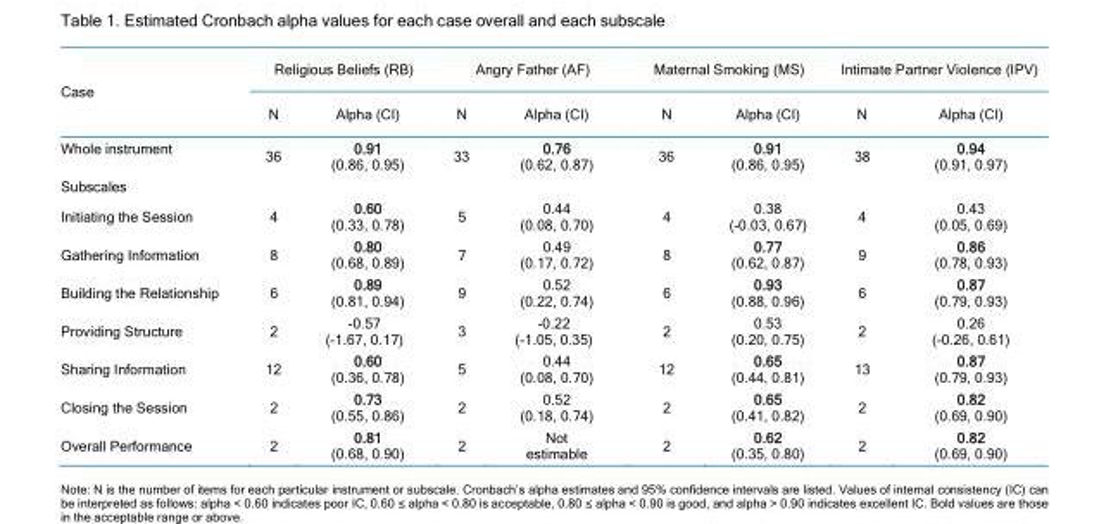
<table><thead><tr><td rowspan="2">Case</td><td colspan="2">Religious Beliefs (RB)</td><td colspan="2">Angry Father (AF)</td><td colspan="2">Maternal Smoking (MS)</td><td colspan="2">Intimate Partner Violence (IPV)</td></tr><tr><td>N</td><td>Alpha (CI)</td><td>N</td><td>Alpha (CI)</td><td>N</td><td>Alpha (CI)</td><td>N</td><td>Alpha (CI)</td></tr></thead><tbody><tr><td>Whole instrument</td><td>36</td><td>0.91 (0.86, 0.95)</td><td>33</td><td>0.76 (0.62, 0.87)</td><td>36</td><td>0.91 (0.86, 0.95)</td><td>38</td><td>0.94 (0.91, 0.97)</td></tr><tr><td colspan="9">Subscales</td></tr><tr><td>Initiating the Session</td><td>4</td><td>0.60 (0.33, 0.78)</td><td>5</td><td>0.44 (0.08, 0.70)</td><td>4</td><td>0.38 (-0.03, 0.67)</td><td>4</td><td>0.43 (0.05, 0.69)</td></tr><tr><td>Gathering Information</td><td>8</td><td>0.80 (0.68, 0.89)</td><td>7</td><td>0.49 (0.17, 0.72)</td><td>8</td><td>0.77 (0.62, 0.87)</td><td>9</td><td>0.86 (0.78, 0.93)</td></tr><tr><td>Building the Relationship</td><td>6</td><td>0.89 (0.81, 0.94)</td><td>9</td><td>0.52 (0.22, 0.74)</td><td>6</td><td>0.93 (0.88, 0.96)</td><td>6</td><td>0.87 (0.79, 0.93)</td></tr><tr><td>Providing Structure</td><td>2</td><td>-0.57 (-1.67, 0.17)</td><td>3</td><td>-0.22 (-1.05, 0.35)</td><td>2</td><td>0.53 (0.20, 0.75)</td><td>2</td><td>0.26 (-0.26, 0.61)</td></tr><tr><td>Sharing Information</td><td>12</td><td>0.60 (0.36, 0.78)</td><td>5</td><td>0.44 (0.08, 0.70)</td><td>12</td><td>0.65 (0.44, 0.81)</td><td>13</td><td>0.87 (0.79, 0.93)</td></tr><tr><td>Closing the Session</td><td>2</td><td>0.73 (0.55, 0.86)</td><td>2</td><td>0.52 (0.18, 0.74)</td><td>2</td><td>0.65 (0.41, 0.82)</td><td>2</td><td>0.82 (0.69, 0.90)</td></tr><tr><td>Overall Performance</td><td>2</td><td>0.81 (0.68, 0.90)</td><td>2</td><td>Not estimable</td><td>2</td><td>0.62 (0.35, 0.80)</td><td>2</td><td>0.82 (0.69, 0.90)</td></tr></tbody></table>